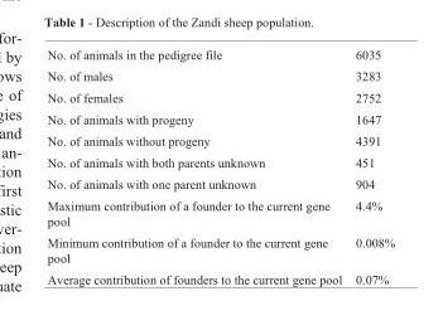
<table><thead><tr><td>No. of animals in the pedigree file</td><td>6035</td></tr></thead><tbody><tr><td>No. of males</td><td>3283</td></tr><tr><td>No. of females</td><td>2752</td></tr><tr><td>No. of animals with progeny</td><td>1647</td></tr><tr><td>No. of animals without progeny</td><td>4391</td></tr><tr><td>No. of animals with both parents unknown</td><td>451</td></tr><tr><td>No. of animals with one parent unknown</td><td>904</td></tr><tr><td>Maximum contribution of a founder to the current gene pool</td><td>4.4%</td></tr><tr><td>Minimum contribution of a founder to the current gene pool</td><td>0.008%</td></tr><tr><td>Average contribution of founders to the current gene pool</td><td>0.07%</td></tr></tbody></table>